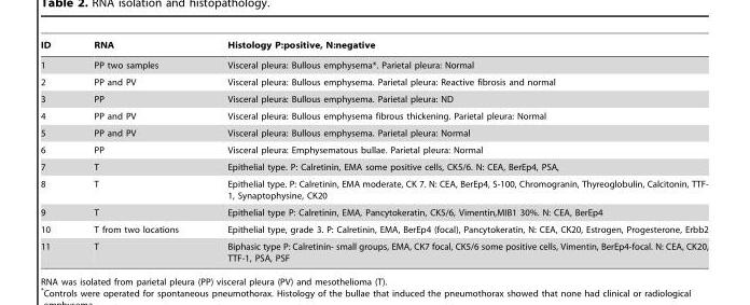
<table><thead><tr><td>ID</td><td>RNA</td><td>Histology P:positive, N:negative</td></tr></thead><tbody><tr><td>1</td><td>PP two samples</td><td>Visceral pleura: Bullous emphysema*. Parietal pleura: Normal</td></tr><tr><td>2</td><td>PP and PV</td><td>Visceral pleura: Bullous emphysema. Parietal pleura: Reactive fibrosis and normal</td></tr><tr><td>3</td><td>PP</td><td>Visceral pleura: Bullous emphysema. Parietal pleura: ND</td></tr><tr><td>4</td><td>PP and PV</td><td>Visceral pleura: Bullous emphysema fibrous thickening. Parietal pleura: Normal</td></tr><tr><td>5</td><td>PP and PV</td><td>Visceral pleura: Bullous emphysema. Parietal pleura: Normal</td></tr><tr><td>6</td><td>PP</td><td>Visceral pleura: Emphysematous bullae. Parietal pleura: Normal</td></tr><tr><td>7</td><td>T</td><td>Epithelial type. P: Calretinin, EMA some positive cells, CK5/6. N: CEA, BerEp4, PSA,</td></tr><tr><td>8</td><td>T</td><td>Epithelial type. P: Calretinin, EMA moderate, CK 7. N: CEA, BerEp4, S-100, Chromogranin, Thyreoglobulin, Calcitonin, TTF- 1, Synaptophysine, CK20</td></tr><tr><td>9</td><td>T</td><td>Epithelial type P: Calretinin, EMA, Pancytokeratin, CK5/6, Vimentin,MIB1 30%. N: CEA, BerEp4</td></tr><tr><td>10</td><td>T from two locations</td><td>Epithelial type, grade 3. P: Calretinin, EMA, BerEp4 (focal), Pancytokeratin, N: CEA, CK20, Estrogen, Progesterone, Erbb2</td></tr><tr><td>11</td><td>T</td><td>Biphasic type P: Calretinin- small groups, EMA, CK7 focal, CK5/6 some positive cells, Vimentin, BerEp4-focal. N: CEA, CK20, TTF-1, PSA, PSF</td></tr></tbody></table>